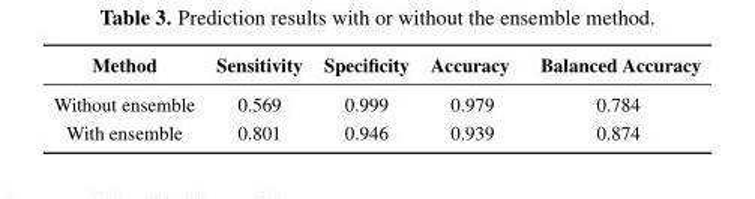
<table><thead><tr><td>Method</td><td>Sensitivity</td><td>Specificity</td><td>Accuracy</td><td>Balanced Accuracy</td></tr></thead><tbody><tr><td>Without ensemble</td><td>0.569</td><td>0.999</td><td>0.979</td><td>0.784</td></tr><tr><td>With ensemble</td><td>0.801</td><td>0.946</td><td>0.939</td><td>0.874</td></tr></tbody></table>